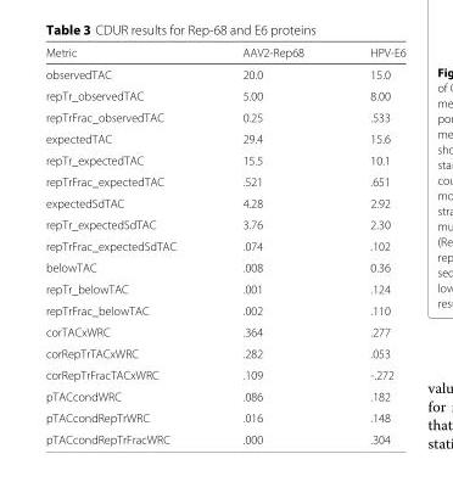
<table><thead><tr><td>Metric</td><td>AAV2-Rep68</td><td>HPV-E6</td></tr></thead><tbody><tr><td>observedTAC</td><td>20.0</td><td>15.0</td></tr><tr><td>repTr_observedTAC</td><td>5.00</td><td>8.00</td></tr><tr><td>repTrFrac_observedTAC</td><td>0.25</td><td>.533</td></tr><tr><td>expectedTAC</td><td>29.4</td><td>15.6</td></tr><tr><td>repTr_expectedTAC</td><td>15.5</td><td>10.1</td></tr><tr><td>repTrFrac_expectedTAC</td><td>.521</td><td>.651</td></tr><tr><td>expectedSdTAC</td><td>4.28</td><td>2.92</td></tr><tr><td>repTr_expectedSdTAC</td><td>3.76</td><td>2.30</td></tr><tr><td>repTrFrac_expectedSdTAC</td><td>.074</td><td>.102</td></tr><tr><td>belowTAC</td><td>.008</td><td>0.36</td></tr><tr><td>repTr_belowTAC</td><td>.001</td><td>.124</td></tr><tr><td>repTrFrac_belowTAC</td><td>.002</td><td>.110</td></tr><tr><td>corTACxWRC</td><td>.364</td><td>.277</td></tr><tr><td>corRepTrTACxWRC</td><td>.282</td><td>.053</td></tr><tr><td>corRepTrFracTACxWRC</td><td>.109</td><td>-.272</td></tr><tr><td>pTACcondWRC</td><td>.086</td><td>.182</td></tr><tr><td>pTACcondRepTrWRC</td><td>.016</td><td>.148</td></tr><tr><td>pTACcondRepTrFracWRC</td><td>.000</td><td>.304</td></tr></tbody></table>